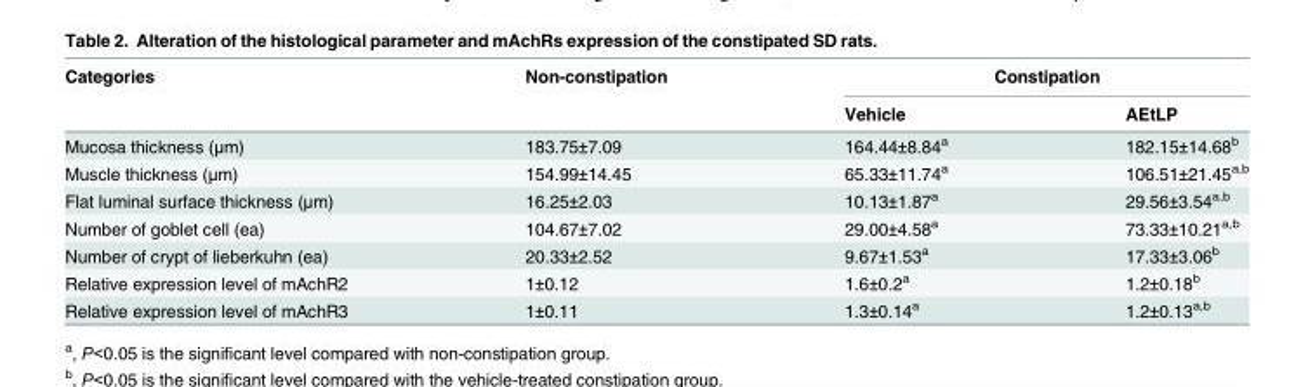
<table><thead><tr><td rowspan="2">Categories</td><td rowspan="2">Non-constipation</td><td colspan="2">Constipation</td></tr><tr><td>Vehicle</td><td>AEtLP</td></tr></thead><tbody><tr><td>Mucosa thickness (μm)</td><td>183.75±7.09</td><td>164.44±8.84<sup>a</sup></td><td>182.15±14.68<sup>b</sup></td></tr><tr><td>Muscle thickness (μm)</td><td>154.99±14.45</td><td>65.33±11.74<sup>a</sup></td><td>106.51±21.45<sup>a,b</sup></td></tr><tr><td>Flat luminal surface thickness (μm)</td><td>16.25±2.03</td><td>10.13±1.87<sup>a</sup></td><td>29.56±3.54<sup>a,b</sup></td></tr><tr><td>Number of goblet cell (ea)</td><td>104.67±7.02</td><td>29.00±4.58<sup>a</sup></td><td>73.33±10.21<sup>a,b</sup></td></tr><tr><td>Number of crypt of lieberkuhn (ea)</td><td>20.33±2.52</td><td>9.67±1.53<sup>a</sup></td><td>17.33±3.06<sup>b</sup></td></tr><tr><td>Relative expression level of mAchR2</td><td>1±0.12</td><td>1.6±0.2<sup>a</sup></td><td>1.2±0.18<sup>b</sup></td></tr><tr><td>Relative expression level of mAchR3</td><td>1±0.11</td><td>1.3±0.14<sup>a</sup></td><td>1.2±0.13<sup>a,b</sup></td></tr></tbody></table>